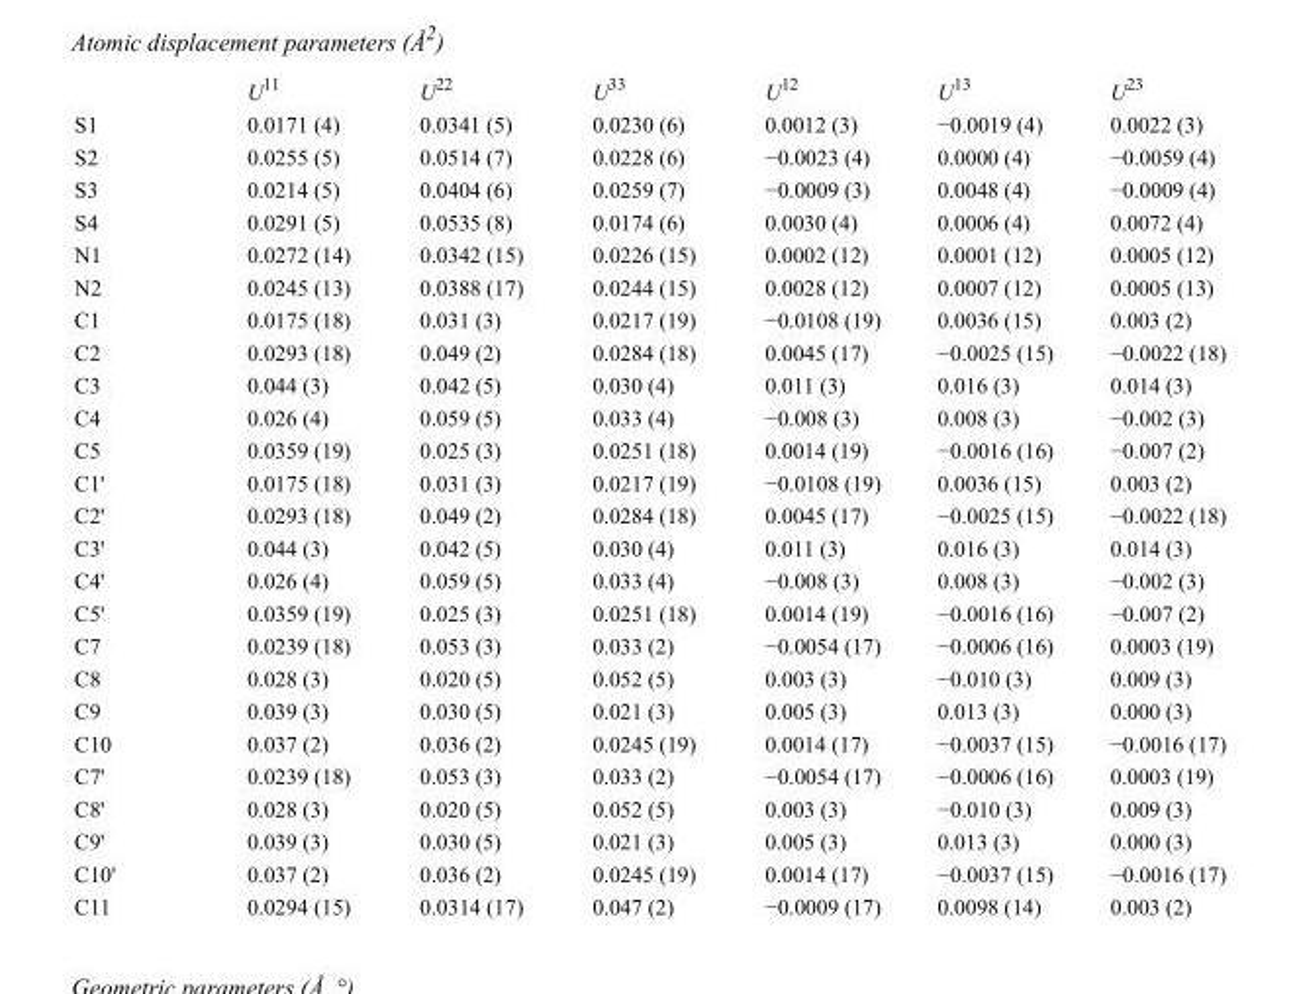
<table><thead><tr><td></td><td>U<sup>11</sup></td><td>U<sup>22</sup></td><td>U<sup>33</sup></td><td>U<sup>12</sup></td><td>U<sup>13</sup></td><td>U<sup>23</sup></td></tr></thead><tbody><tr><td>S1</td><td>0.0171 (4)</td><td>0.0341 (5)</td><td>0.0230 (6)</td><td>0.0012 (3)</td><td>−0.0019 (4)</td><td>0.0022 (3)</td></tr><tr><td>S2</td><td>0.0255 (5)</td><td>0.0514 (7)</td><td>0.0228 (6)</td><td>−0.0023 (4)</td><td>0.0000 (4)</td><td>−0.0059 (4)</td></tr><tr><td>S3</td><td>0.0214 (5)</td><td>0.0404 (6)</td><td>0.0259 (7)</td><td>−0.0009 (3)</td><td>0.0048 (4)</td><td>−0.0009 (4)</td></tr><tr><td>S4</td><td>0.0291 (5)</td><td>0.0535 (8)</td><td>0.0174 (6)</td><td>0.0030 (4)</td><td>0.0006 (4)</td><td>0.0072 (4)</td></tr><tr><td>N1</td><td>0.0272 (14)</td><td>0.0342 (15)</td><td>0.0226 (15)</td><td>0.0002 (12)</td><td>0.0001 (12)</td><td>0.0005 (12)</td></tr><tr><td>N2</td><td>0.0245 (13)</td><td>0.0388 (17)</td><td>0.0244 (15)</td><td>0.0028 (12)</td><td>0.0007 (12)</td><td>0.0005 (13)</td></tr><tr><td>C1</td><td>0.0175 (18)</td><td>0.031 (3)</td><td>0.0217 (19)</td><td>−0.0108 (19)</td><td>0.0036 (15)</td><td>0.003 (2)</td></tr><tr><td>C2</td><td>0.0293 (18)</td><td>0.049 (2)</td><td>0.0284 (18)</td><td>0.0045 (17)</td><td>−0.0025 (15)</td><td>−0.0022 (18)</td></tr><tr><td>C3</td><td>0.044 (3)</td><td>0.042 (5)</td><td>0.030 (4)</td><td>0.011 (3)</td><td>0.016 (3)</td><td>0.014 (3)</td></tr><tr><td>C4</td><td>0.026 (4)</td><td>0.059 (5)</td><td>0.033 (4)</td><td>−0.008 (3)</td><td>0.008 (3)</td><td>−0.002 (3)</td></tr><tr><td>C5</td><td>0.0359 (19)</td><td>0.025 (3)</td><td>0.0251 (18)</td><td>0.0014 (19)</td><td>−0.0016 (16)</td><td>−0.007 (2)</td></tr><tr><td>C1&#x27;</td><td>0.0175 (18)</td><td>0.031 (3)</td><td>0.0217 (19)</td><td>−0.0108 (19)</td><td>0.0036 (15)</td><td>0.003 (2)</td></tr><tr><td>C2&#x27;</td><td>0.0293 (18)</td><td>0.049 (2)</td><td>0.0284 (18)</td><td>0.0045 (17)</td><td>−0.0025 (15)</td><td>−0.0022 (18)</td></tr><tr><td>C3&#x27;</td><td>0.044 (3)</td><td>0.042 (5)</td><td>0.030 (4)</td><td>0.011 (3)</td><td>0.016 (3)</td><td>0.014 (3)</td></tr><tr><td>C4&#x27;</td><td>0.026 (4)</td><td>0.059 (5)</td><td>0.033 (4)</td><td>−0.008 (3)</td><td>0.008 (3)</td><td>−0.002 (3)</td></tr><tr><td>C5&#x27;</td><td>0.0359 (19)</td><td>0.025 (3)</td><td>0.0251 (18)</td><td>0.0014 (19)</td><td>−0.0016 (16)</td><td>−0.007 (2)</td></tr><tr><td>C7</td><td>0.0239 (18)</td><td>0.053 (3)</td><td>0.033 (2)</td><td>−0.0054 (17)</td><td>−0.0006 (16)</td><td>0.0003 (19)</td></tr><tr><td>C8</td><td>0.028 (3)</td><td>0.020 (5)</td><td>0.052 (5)</td><td>0.003 (3)</td><td>−0.010 (3)</td><td>0.009 (3)</td></tr><tr><td>C9</td><td>0.039 (3)</td><td>0.030 (5)</td><td>0.021 (3)</td><td>0.005 (3)</td><td>0.013 (3)</td><td>0.000 (3)</td></tr><tr><td>C10</td><td>0.037 (2)</td><td>0.036 (2)</td><td>0.0245 (19)</td><td>0.0014 (17)</td><td>−0.0037 (15)</td><td>−0.0016 (17)</td></tr><tr><td>C7&#x27;</td><td>0.0239 (18)</td><td>0.053 (3)</td><td>0.033 (2)</td><td>−0.0054 (17)</td><td>−0.0006 (16)</td><td>0.0003 (19)</td></tr><tr><td>C8&#x27;</td><td>0.028 (3)</td><td>0.020 (5)</td><td>0.052 (5)</td><td>0.003 (3)</td><td>−0.010 (3)</td><td>0.009 (3)</td></tr><tr><td>C9&#x27;</td><td>0.039 (3)</td><td>0.030 (5)</td><td>0.021 (3)</td><td>0.005 (3)</td><td>0.013 (3)</td><td>0.000 (3)</td></tr><tr><td>C10&#x27;</td><td>0.037 (2)</td><td>0.036 (2)</td><td>0.0245 (19)</td><td>0.0014 (17)</td><td>−0.0037 (15)</td><td>−0.0016 (17)</td></tr><tr><td>C11</td><td>0.0294 (15)</td><td>0.0314 (17)</td><td>0.047 (2)</td><td>−0.0009 (17)</td><td>0.0098 (14)</td><td>0.003 (2)</td></tr></tbody></table>